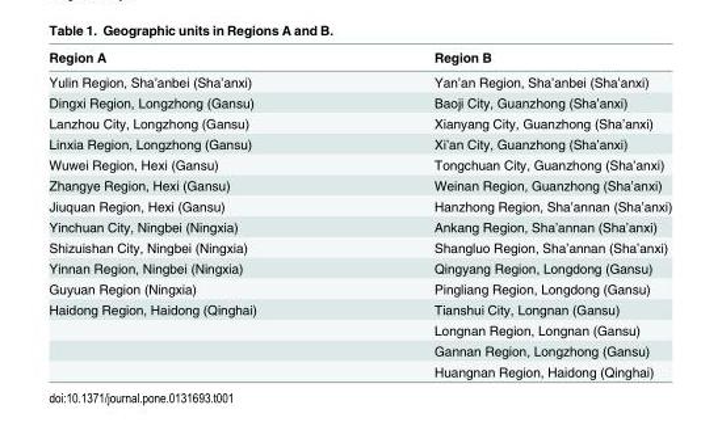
<table><thead><tr><td>Region A</td><td>Region B</td></tr></thead><tbody><tr><td>Yulin Region, Sha’anbei (Sha’anxi)</td><td>Yan’an Region, Sha’anbei (Sha’anxi)</td></tr><tr><td>Dingxi Region, Longzhong (Gansu)</td><td>Baoji City, Guanzhong (Sha’anxi)</td></tr><tr><td>Lanzhou City, Longzhong (Gansu)</td><td>Xianyang City, Guanzhong (Sha’anxi)</td></tr><tr><td>Linxia Region, Longzhong (Gansu)</td><td>Xi’an City, Guanzhong (Sha’anxi)</td></tr><tr><td>Wuwei Region, Hexi (Gansu)</td><td>Tongchuan City, Guanzhong (Sha’anxi)</td></tr><tr><td>Zhangye Region, Hexi (Gansu)</td><td>Weinan Region, Guanzhong (Sha’anxi)</td></tr><tr><td>Jiuquan Region, Hexi (Gansu)</td><td>Hanzhong Region, Sha’annan (Sha’anxi)</td></tr><tr><td>Yinchuan City, Ningbei (Ningxia)</td><td>Ankang Region, Sha’annan (Sha’anxi)</td></tr><tr><td>Shizuishan City, Ningbei (Ningxia)</td><td>Shangluo Region, Sha’annan (Sha’anxi)</td></tr><tr><td>Yinnan Region, Ningbei (Ningxia)</td><td>Qingyang Region, Longdong (Gansu)</td></tr><tr><td>Guyuan Region (Ningxia)</td><td>Pingliang Region, Longdong (Gansu)</td></tr><tr><td rowspan="4">Haidong Region, Haidong (Qinghai)</td><td>Tianshui City, Longnan (Gansu)</td></tr><tr><td>Longnan Region, Longnan (Gansu)</td></tr><tr><td>Gannan Region, Longzhong (Gansu)</td></tr><tr><td>Huangnan Region, Haidong (Qinghai)</td></tr></tbody></table>